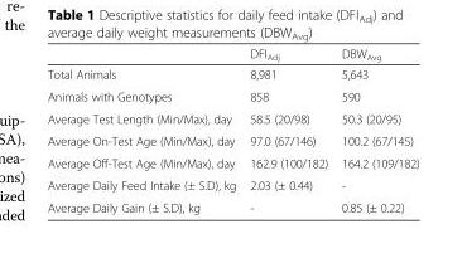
<table><thead><tr><td></td><td>DFI<sub>Adj</sub></td><td>DBW<sub>Avg</sub></td></tr></thead><tbody><tr><td>Total Animals</td><td>8,981</td><td>5,643</td></tr><tr><td>Animals with Genotypes</td><td>858</td><td>590</td></tr><tr><td>Average Test Length (Min/Max), day</td><td>58.5 (20/98)</td><td>50.3 (20/95)</td></tr><tr><td>Average On-Test Age (Min/Max), day</td><td>97.0 (67/146)</td><td>100.2 (67/145)</td></tr><tr><td>Average Off-Test Age (Min/Max), day</td><td>162.9 (100/182)</td><td>164.2 (109/182)</td></tr><tr><td>Average Daily Feed Intake (± S.D), kg</td><td>2.03 (± 0.44)</td><td>-</td></tr><tr><td>Average Daily Gain (± S.D), kg</td><td>-</td><td>0.85 (± 0.22)</td></tr></tbody></table>